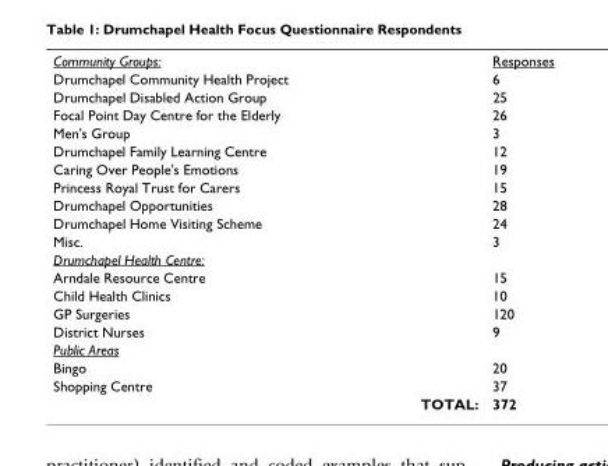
<table><tbody><tr><td>Community Groups:</td><td>Responses</td></tr><tr><td>Drumchapel Community Health Project</td><td>6</td></tr><tr><td>Drumchapel Disabled Action Group</td><td>25</td></tr><tr><td>Focal Point Day Centre for the Elderly</td><td>26</td></tr><tr><td>Men&#x27;s Group</td><td>3</td></tr><tr><td>Drumchapel Family Learning Centre</td><td>12</td></tr><tr><td>Caring Over People&#x27;s Emotions</td><td>19</td></tr><tr><td>Princess Royal Trust for Carers</td><td>15</td></tr><tr><td>Drumchapel Opportunities</td><td>28</td></tr><tr><td>Drumchapel Home Visiting Scheme</td><td>24</td></tr><tr><td>Misc.</td><td>3</td></tr><tr><td colspan="2">Drumchapel Health Centre:</td></tr><tr><td>Arndale Resource Centre</td><td>15</td></tr><tr><td>Child Health Clinics</td><td>10</td></tr><tr><td>GP Surgeries</td><td>120</td></tr><tr><td>District Nurses</td><td>9</td></tr><tr><td colspan="2">Public Areas</td></tr><tr><td>Bingo</td><td>20</td></tr><tr><td>Shopping Centre</td><td>37</td></tr><tr><td>TOTAL:</td><td>372</td></tr></tbody></table>